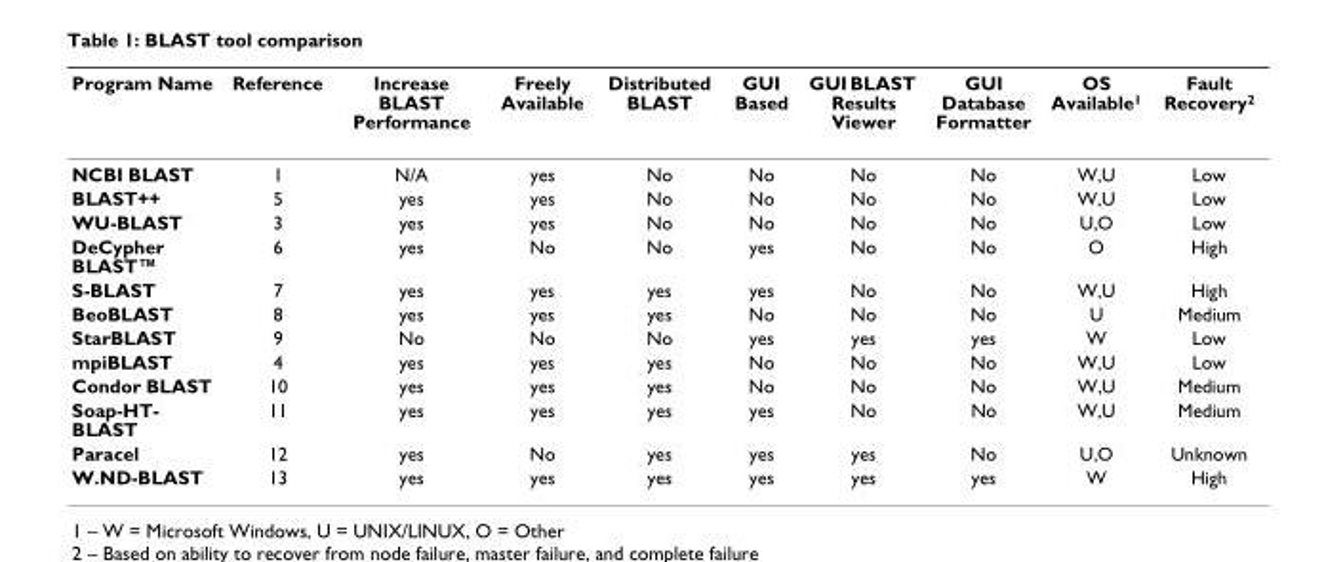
<table><thead><tr><td>Program Name</td><td>Reference</td><td>Increase BLAST Performance</td><td>Freely Available</td><td>Distributed BLAST</td><td>GUI Based</td><td>GUI BLAST Results Viewer</td><td>GUI Database Formatter</td><td>OS Available1</td><td>Fault Recovery2</td></tr></thead><tbody><tr><td>NCBI BLAST</td><td>1</td><td>N/A</td><td>yes</td><td>No</td><td>No</td><td>No</td><td>No</td><td>W,U</td><td>Low</td></tr><tr><td>BLAST++</td><td>5</td><td>yes</td><td>yes</td><td>No</td><td>No</td><td>No</td><td>No</td><td>W,U</td><td>Low</td></tr><tr><td>WU-BLAST</td><td>3</td><td>yes</td><td>yes</td><td>No</td><td>No</td><td>No</td><td>No</td><td>U,O</td><td>Low</td></tr><tr><td>DeCypher BLAST™</td><td>6</td><td>yes</td><td>No</td><td>No</td><td>yes</td><td>No</td><td>No</td><td>O</td><td>High</td></tr><tr><td>S-BLAST</td><td>7</td><td>yes</td><td>yes</td><td>yes</td><td>yes</td><td>No</td><td>No</td><td>W,U</td><td>High</td></tr><tr><td>BeoBLAST</td><td>8</td><td>yes</td><td>yes</td><td>yes</td><td>No</td><td>No</td><td>No</td><td>U</td><td>Medium</td></tr><tr><td>StarBLAST</td><td>9</td><td>No</td><td>No</td><td>No</td><td>yes</td><td>yes</td><td>yes</td><td>W</td><td>Low</td></tr><tr><td>mpiBLAST</td><td>4</td><td>yes</td><td>yes</td><td>yes</td><td>No</td><td>No</td><td>No</td><td>W,U</td><td>Low</td></tr><tr><td>Condor BLAST</td><td>10</td><td>yes</td><td>yes</td><td>yes</td><td>No</td><td>No</td><td>No</td><td>W,U</td><td>Medium</td></tr><tr><td>Soap-HT- BLAST</td><td>11</td><td>yes</td><td>yes</td><td>yes</td><td>yes</td><td>No</td><td>No</td><td>W,U</td><td>Medium</td></tr><tr><td>Paracel</td><td>12</td><td>yes</td><td>No</td><td>yes</td><td>yes</td><td>yes</td><td>No</td><td>U,O</td><td>Unknown</td></tr><tr><td>W.ND-BLAST</td><td>13</td><td>yes</td><td>yes</td><td>yes</td><td>yes</td><td>yes</td><td>yes</td><td>W</td><td>High</td></tr></tbody></table>